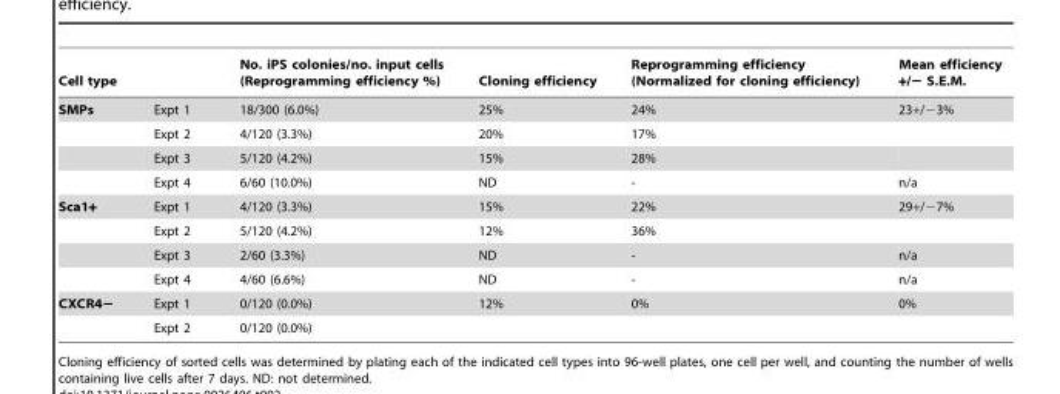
<table><thead><tr><td>Cell type</td><td></td><td>No. iPS colonies/no. input cells (Reprogramming efficiency %)</td><td>Cloning efficiency</td><td>Reprogramming efficiency (Normalized for cloning efficiency)</td><td>Mean efficiency +/− S.E.M.</td></tr></thead><tbody><tr><td rowspan="4">SMPs</td><td>Expt 1</td><td>18/300 (6.0%)</td><td>25%</td><td>24%</td><td>23+/−3%</td></tr><tr><td>Expt 2</td><td>4/120 (3.3%)</td><td>20%</td><td>17%</td><td></td></tr><tr><td>Expt 3</td><td>5/120 (4.2%)</td><td>15%</td><td>28%</td><td></td></tr><tr><td>Expt 4</td><td>6/60 (10.0%)</td><td>ND</td><td>-</td><td>n/a</td></tr><tr><td rowspan="4">Sca1+</td><td>Expt 1</td><td>4/120 (3.3%)</td><td>15%</td><td>22%</td><td>29+/−7%</td></tr><tr><td>Expt 2</td><td>5/120 (4.2%)</td><td>12%</td><td>36%</td><td></td></tr><tr><td>Expt 3</td><td>2/60 (3.3%)</td><td>ND</td><td>-</td><td>n/a</td></tr><tr><td>Expt 4</td><td>4/60 (6.6%)</td><td>ND</td><td>-</td><td>n/a</td></tr><tr><td rowspan="2">CXCR4−</td><td>Expt 1</td><td>0/120 (0.0%)</td><td>12%</td><td>0%</td><td>0%</td></tr><tr><td>Expt 2</td><td>0/120 (0.0%)</td><td></td><td></td><td></td></tr></tbody></table>